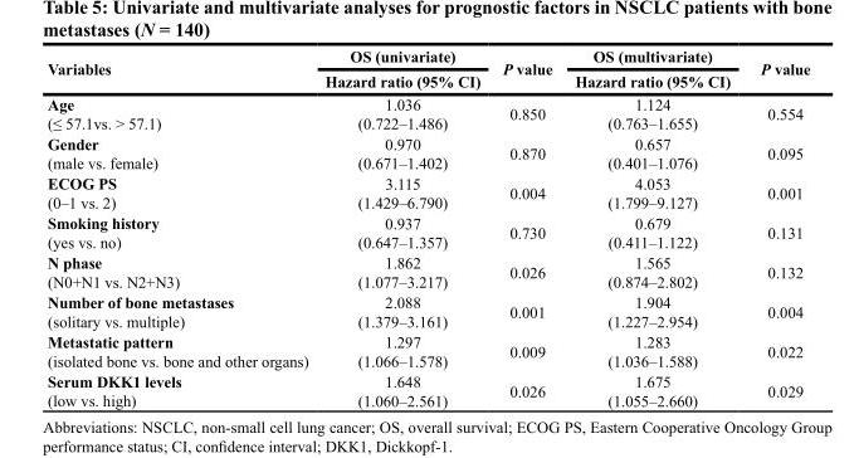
<table><thead><tr><td rowspan="2">Variables</td><td rowspan="2">OS (univariate) Hazard ratio (95% CI)</td><td rowspan="2">P value</td><td rowspan="2">OS (multivariate) Hazard ratio (95% CI)</td><td rowspan="2">P value</td></tr><tr></tr></thead><tbody><tr><td>Age</td><td>1.036</td><td rowspan="2">0.850</td><td>1.124</td><td rowspan="2">0.554</td></tr><tr><td>(≤ 57.1vs. &gt; 57.1)</td><td>(0.722–1.486)</td><td>(0.763–1.655)</td></tr><tr><td>Gender</td><td>0.970</td><td rowspan="2">0.870</td><td>0.657</td><td rowspan="2">0.095</td></tr><tr><td>(male vs. female)</td><td>(0.671–1.402)</td><td>(0.401–1.076)</td></tr><tr><td>ECOG PS</td><td>3.115</td><td rowspan="2">0.004</td><td>4.053</td><td rowspan="2">0.001</td></tr><tr><td>(0–1 vs. 2)</td><td>(1.429–6.790)</td><td>(1.799–9.127)</td></tr><tr><td>Smoking history</td><td>0.937</td><td rowspan="2">0.730</td><td>0.679</td><td rowspan="2">0.131</td></tr><tr><td>(yes vs. no)</td><td>(0.647–1.357)</td><td>(0.411–1.122)</td></tr><tr><td>N phase</td><td>1.862</td><td rowspan="2">0.026</td><td>1.565</td><td rowspan="2">0.132</td></tr><tr><td>(N0+N1 vs. N2+N3)</td><td>(1.077–3.217)</td><td>(0.874–2.802)</td></tr><tr><td>Number of bone metastases</td><td>2.088</td><td rowspan="2">0.001</td><td>1.904</td><td rowspan="2">0.004</td></tr><tr><td>(solitary vs. multiple)</td><td>(1.379–3.161)</td><td>(1.227–2.954)</td></tr><tr><td>Metastatic pattern</td><td>1.297</td><td rowspan="2">0.009</td><td>1.283</td><td rowspan="2">0.022</td></tr><tr><td>(isolated bone vs. bone and other organs)</td><td>(1.066–1.578)</td><td>(1.036–1.588)</td></tr><tr><td>Serum DKK1 levels</td><td>1.648</td><td rowspan="2">0.026</td><td>1.675</td><td rowspan="2">0.029</td></tr><tr><td>(low vs. high)</td><td>(1.060–2.561)</td><td>(1.055–2.660)</td></tr></tbody></table>